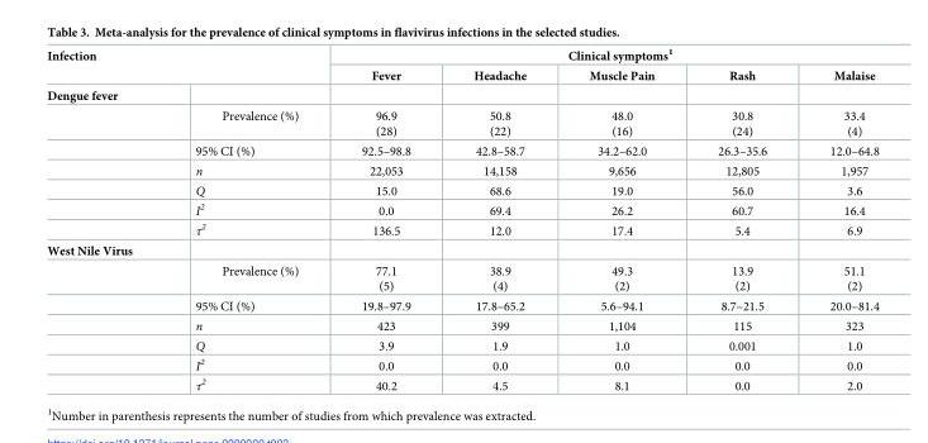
<table><thead><tr><td rowspan="2" colspan="2">Infection</td><td colspan="5">Clinical symptoms<sup>1</sup></td></tr><tr><td rowspan="2">Fever</td><td rowspan="2">Headache</td><td rowspan="2">Muscle Pain</td><td rowspan="2">Rash</td><td rowspan="2">Malaise</td></tr><tr><td>Dengue fever</td><td></td></tr></thead><tbody><tr><td></td><td>Prevalence (%)</td><td>96.9 (28)</td><td>50.8 (22)</td><td>48.0 (16)</td><td>30.8 (24)</td><td>33.4 (4)</td></tr><tr><td></td><td>95% CI (%)</td><td>92.5–98.8</td><td>42.8–58.7</td><td>34.2–62.0</td><td>26.3–35.6</td><td>12.0–64.8</td></tr><tr><td></td><td>n</td><td>22,053</td><td>14,158</td><td>9,656</td><td>12,805</td><td>1,957</td></tr><tr><td></td><td>Q</td><td>15.0</td><td>68.6</td><td>19.0</td><td>56.0</td><td>3.6</td></tr><tr><td></td><td>I<sup>2</sup></td><td>0.0</td><td>69.4</td><td>26.2</td><td>60.7</td><td>16.4</td></tr><tr><td></td><td>τ<sup>2</sup></td><td>136.5</td><td>12.0</td><td>17.4</td><td>5.4</td><td>6.9</td></tr><tr><td colspan="7">West Nile Virus</td></tr><tr><td></td><td>Prevalence (%)</td><td>77.1 (5)</td><td>38.9 (4)</td><td>49.3 (2)</td><td>13.9 (2)</td><td>51.1 (2)</td></tr><tr><td></td><td>95% CI (%)</td><td>19.8–97.9</td><td>17.8–65.2</td><td>5.6–94.1</td><td>8.7–21.5</td><td>20.0–81.4</td></tr><tr><td></td><td>n</td><td>423</td><td>399</td><td>1,104</td><td>115</td><td>323</td></tr><tr><td></td><td>Q</td><td>3.9</td><td>1.9</td><td>1.0</td><td>0.001</td><td>1.0</td></tr><tr><td></td><td>I<sup>2</sup></td><td>0.0</td><td>0.0</td><td>0.0</td><td>0.0</td><td>0.0</td></tr><tr><td></td><td>τ<sup>2</sup></td><td>40.2</td><td>4.5</td><td>8.1</td><td>0.0</td><td>2.0</td></tr></tbody></table>